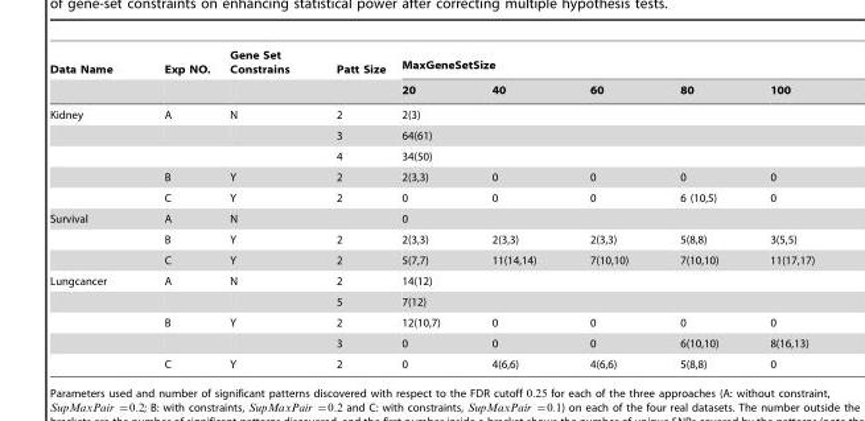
<table><thead><tr><td rowspan="2">Data Name</td><td rowspan="2">Exp NO.</td><td rowspan="2">Gene Set Constrains</td><td rowspan="2">Patt Size</td><td colspan="5">MaxGeneSetSize</td></tr><tr><td>20</td><td>40</td><td>60</td><td>80</td><td>100</td></tr></thead><tbody><tr><td rowspan="5">Kidney</td><td>A</td><td>N</td><td>2</td><td colspan="5">2(3)</td></tr><tr><td></td><td></td><td>3</td><td colspan="5">64(61)</td></tr><tr><td></td><td></td><td>4</td><td colspan="5">34(50)</td></tr><tr><td>B</td><td>Y</td><td>2</td><td>2(3,3)</td><td>0</td><td>0</td><td>0</td><td>0</td></tr><tr><td>C</td><td>Y</td><td>2</td><td>0</td><td>0</td><td>0</td><td>6 (10,5)</td><td>0</td></tr><tr><td rowspan="3">Survival</td><td>A</td><td>N</td><td></td><td colspan="5">0</td></tr><tr><td>B</td><td>Y</td><td>2</td><td>2(3,3)</td><td>2(3,3)</td><td>2(3,3)</td><td>5(8,8)</td><td>3(5,5)</td></tr><tr><td>C</td><td>Y</td><td>2</td><td>5(7,7)</td><td>11(14,14)</td><td>7(10,10)</td><td>7(10,10)</td><td>11(17,17)</td></tr><tr><td rowspan="5">Lungcancer</td><td>A</td><td>N</td><td>2</td><td colspan="5">14(12)</td></tr><tr><td></td><td></td><td>5</td><td colspan="5">7(12)</td></tr><tr><td>B</td><td>Y</td><td>2</td><td>12(10,7)</td><td>0</td><td>0</td><td>0</td><td>0</td></tr><tr><td></td><td></td><td>3</td><td>0</td><td>0</td><td>0</td><td>6(10,10)</td><td>8(16,13)</td></tr><tr><td>C</td><td>Y</td><td>2</td><td>0</td><td>4(6,6)</td><td>4(6,6)</td><td>5(8,8)</td><td>0</td></tr></tbody></table>